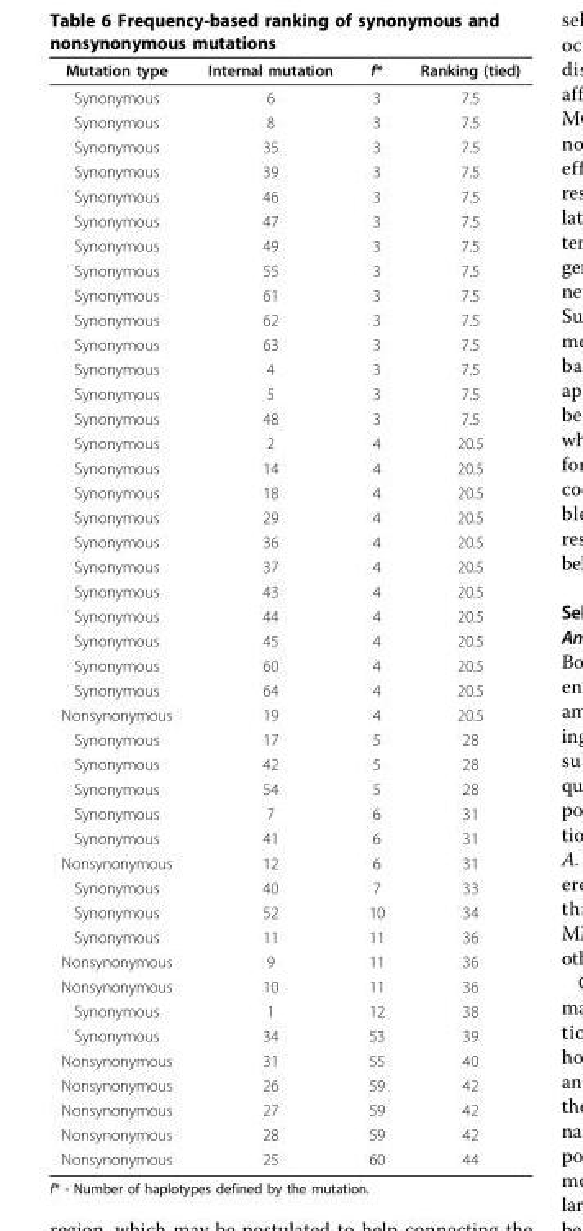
<table><thead><tr><td>Mutation type</td><td>Internal mutation</td><td>f*</td><td>Ranking (tied)</td></tr></thead><tbody><tr><td>Synonymous</td><td>6</td><td>3</td><td>7.5</td></tr><tr><td>Synonymous</td><td>8</td><td>3</td><td>7.5</td></tr><tr><td>Synonymous</td><td>35</td><td>3</td><td>7.5</td></tr><tr><td>Synonymous</td><td>39</td><td>3</td><td>7.5</td></tr><tr><td>Synonymous</td><td>46</td><td>3</td><td>7.5</td></tr><tr><td>Synonymous</td><td>47</td><td>3</td><td>7.5</td></tr><tr><td>Synonymous</td><td>49</td><td>3</td><td>7.5</td></tr><tr><td>Synonymous</td><td>55</td><td>3</td><td>7.5</td></tr><tr><td>Synonymous</td><td>61</td><td>3</td><td>7.5</td></tr><tr><td>Synonymous</td><td>62</td><td>3</td><td>7.5</td></tr><tr><td>Synonymous</td><td>63</td><td>3</td><td>7.5</td></tr><tr><td>Synonymous</td><td>4</td><td>3</td><td>7.5</td></tr><tr><td>Synonymous</td><td>5</td><td>3</td><td>7.5</td></tr><tr><td>Synonymous</td><td>48</td><td>3</td><td>7.5</td></tr><tr><td>Synonymous</td><td>2</td><td>4</td><td>20.5</td></tr><tr><td>Synonymous</td><td>14</td><td>4</td><td>20.5</td></tr><tr><td>Synonymous</td><td>18</td><td>4</td><td>20.5</td></tr><tr><td>Synonymous</td><td>29</td><td>4</td><td>20.5</td></tr><tr><td>Synonymous</td><td>36</td><td>4</td><td>20.5</td></tr><tr><td>Synonymous</td><td>37</td><td>4</td><td>20.5</td></tr><tr><td>Synonymous</td><td>43</td><td>4</td><td>20.5</td></tr><tr><td>Synonymous</td><td>44</td><td>4</td><td>20.5</td></tr><tr><td>Synonymous</td><td>45</td><td>4</td><td>20.5</td></tr><tr><td>Synonymous</td><td>60</td><td>4</td><td>20.5</td></tr><tr><td>Synonymous</td><td>64</td><td>4</td><td>20.5</td></tr><tr><td>Nonsynonymous</td><td>19</td><td>4</td><td>20.5</td></tr><tr><td>Synonymous</td><td>17</td><td>5</td><td>28</td></tr><tr><td>Synonymous</td><td>42</td><td>5</td><td>28</td></tr><tr><td>Synonymous</td><td>54</td><td>5</td><td>28</td></tr><tr><td>Synonymous</td><td>7</td><td>6</td><td>31</td></tr><tr><td>Synonymous</td><td>41</td><td>6</td><td>31</td></tr><tr><td>Nonsynonymous</td><td>12</td><td>6</td><td>31</td></tr><tr><td>Synonymous</td><td>40</td><td>7</td><td>33</td></tr><tr><td>Synonymous</td><td>52</td><td>10</td><td>34</td></tr><tr><td>Synonymous</td><td>11</td><td>11</td><td>36</td></tr><tr><td>Nonsynonymous</td><td>9</td><td>11</td><td>36</td></tr><tr><td>Nonsynonymous</td><td>10</td><td>11</td><td>36</td></tr><tr><td>Synonymous</td><td>1</td><td>12</td><td>38</td></tr><tr><td>Synonymous</td><td>34</td><td>53</td><td>39</td></tr><tr><td>Nonsynonymous</td><td>31</td><td>55</td><td>40</td></tr><tr><td>Nonsynonymous</td><td>26</td><td>59</td><td>42</td></tr><tr><td>Nonsynonymous</td><td>27</td><td>59</td><td>42</td></tr><tr><td>Nonsynonymous</td><td>28</td><td>59</td><td>42</td></tr><tr><td>Nonsynonymous</td><td>25</td><td>60</td><td>44</td></tr></tbody></table>